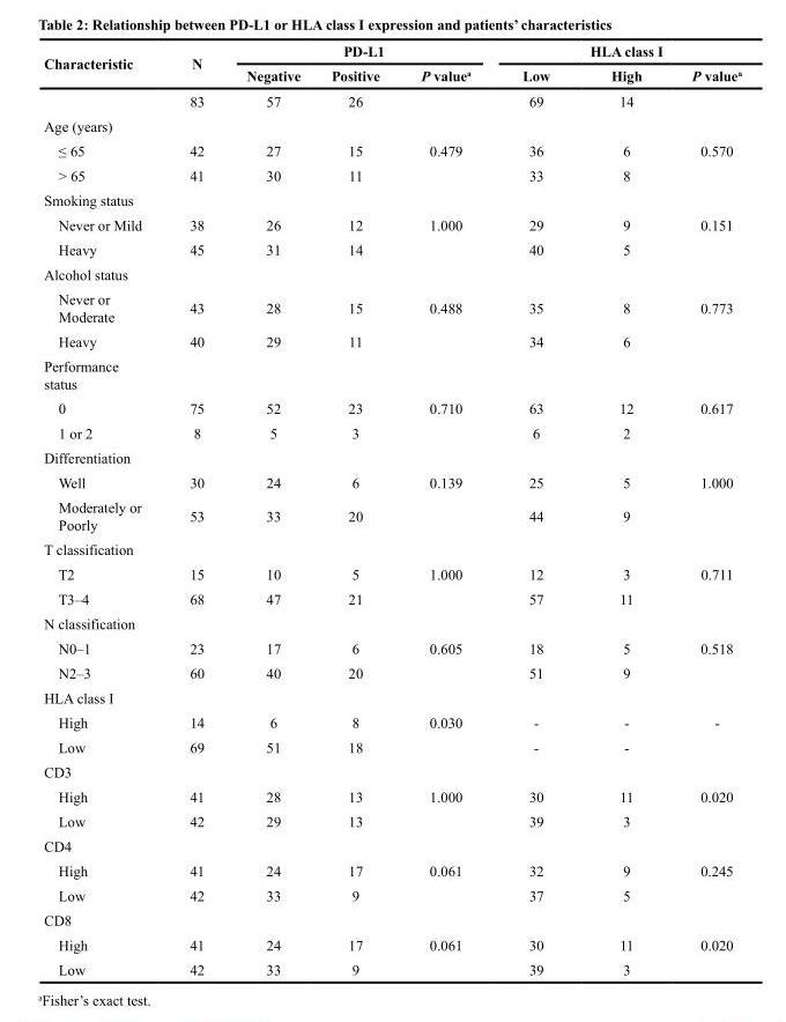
<table><thead><tr><td rowspan="2">Characteristic</td><td rowspan="2">N</td><td colspan="3">PD-L1</td><td colspan="3">HLA class I</td></tr><tr><td>Negative</td><td>Positive</td><td>P value<sup>a</sup></td><td>Low</td><td>High</td><td>P value<sup>a</sup></td></tr></thead><tbody><tr><td></td><td>83</td><td>57</td><td>26</td><td></td><td>69</td><td>14</td><td></td></tr><tr><td colspan="8">Age (years)</td></tr><tr><td>≤ 65</td><td>42</td><td>27</td><td>15</td><td>0.479</td><td>36</td><td>6</td><td>0.570</td></tr><tr><td>&gt; 65</td><td>41</td><td>30</td><td>11</td><td></td><td>33</td><td>8</td><td></td></tr><tr><td colspan="8">Smoking status</td></tr><tr><td>Never or Mild</td><td>38</td><td>26</td><td>12</td><td>1.000</td><td>29</td><td>9</td><td>0.151</td></tr><tr><td>Heavy</td><td>45</td><td>31</td><td>14</td><td></td><td>40</td><td>5</td><td></td></tr><tr><td colspan="8">Alcohol status</td></tr><tr><td>Never or Moderate</td><td>43</td><td>28</td><td>15</td><td>0.488</td><td>35</td><td>8</td><td>0.773</td></tr><tr><td>Heavy</td><td>40</td><td>29</td><td>11</td><td></td><td>34</td><td>6</td><td></td></tr><tr><td colspan="8">Performance status</td></tr><tr><td>0</td><td>75</td><td>52</td><td>23</td><td>0.710</td><td>63</td><td>12</td><td>0.617</td></tr><tr><td>1 or 2</td><td>8</td><td>5</td><td>3</td><td></td><td>6</td><td>2</td><td></td></tr><tr><td colspan="8">Differentiation</td></tr><tr><td>Well</td><td>30</td><td>24</td><td>6</td><td>0.139</td><td>25</td><td>5</td><td>1.000</td></tr><tr><td>Moderately or Poorly</td><td>53</td><td>33</td><td>20</td><td></td><td>44</td><td>9</td><td></td></tr><tr><td colspan="8">T classification</td></tr><tr><td>T2</td><td>15</td><td>10</td><td>5</td><td>1.000</td><td>12</td><td>3</td><td>0.711</td></tr><tr><td>T3–4</td><td>68</td><td>47</td><td>21</td><td></td><td>57</td><td>11</td><td></td></tr><tr><td colspan="8">N classification</td></tr><tr><td>N0–1</td><td>23</td><td>17</td><td>6</td><td>0.605</td><td>18</td><td>5</td><td>0.518</td></tr><tr><td>N2–3</td><td>60</td><td>40</td><td>20</td><td></td><td>51</td><td>9</td><td></td></tr><tr><td colspan="8">HLA class I</td></tr><tr><td>High</td><td>14</td><td>6</td><td>8</td><td>0.030</td><td>-</td><td>-</td><td>-</td></tr><tr><td>Low</td><td>69</td><td>51</td><td>18</td><td></td><td>-</td><td>-</td><td></td></tr><tr><td colspan="8">CD3</td></tr><tr><td>High</td><td>41</td><td>28</td><td>13</td><td>1.000</td><td>30</td><td>11</td><td>0.020</td></tr><tr><td>Low</td><td>42</td><td>29</td><td>13</td><td></td><td>39</td><td>3</td><td></td></tr><tr><td colspan="8">CD4</td></tr><tr><td>High</td><td>41</td><td>24</td><td>17</td><td>0.061</td><td>32</td><td>9</td><td>0.245</td></tr><tr><td>Low</td><td>42</td><td>33</td><td>9</td><td></td><td>37</td><td>5</td><td></td></tr><tr><td colspan="8">CD8</td></tr><tr><td>High</td><td>41</td><td>24</td><td>17</td><td>0.061</td><td>30</td><td>11</td><td>0.020</td></tr><tr><td>Low</td><td>42</td><td>33</td><td>9</td><td></td><td>39</td><td>3</td><td></td></tr></tbody></table>